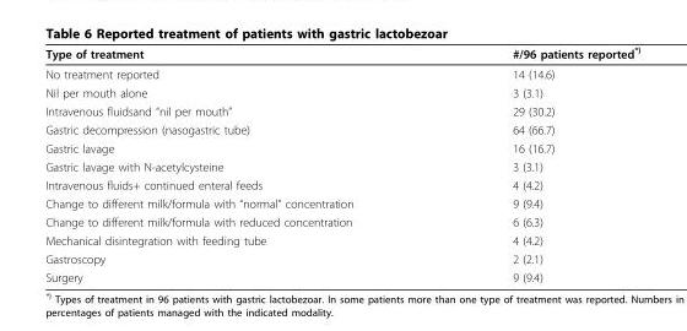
<table><thead><tr><td>Type of treatment</td><td>#/96 patients reported<sup>*)</sup></td></tr></thead><tbody><tr><td>No treatment reported</td><td>14 (14.6)</td></tr><tr><td>Nil per mouth alone</td><td>3 (3.1)</td></tr><tr><td>Intravenous fluidsand “nil per mouth”</td><td>29 (30.2)</td></tr><tr><td>Gastric decompression (nasogastric tube)</td><td>64 (66.7)</td></tr><tr><td>Gastric lavage</td><td>16 (16.7)</td></tr><tr><td>Gastric lavage with N-acetylcysteine</td><td>3 (3.1)</td></tr><tr><td>Intravenous fluids+ continued enteral feeds</td><td>4 (4.2)</td></tr><tr><td>Change to different milk/formula with “normal” concentration</td><td>9 (9.4)</td></tr><tr><td>Change to different milk/formula with reduced concentration</td><td>6 (6.3)</td></tr><tr><td>Mechanical disintegration with feeding tube</td><td>4 (4.2)</td></tr><tr><td>Gastroscopy</td><td>2 (2.1)</td></tr><tr><td>Surgery</td><td>9 (9.4)</td></tr></tbody></table>